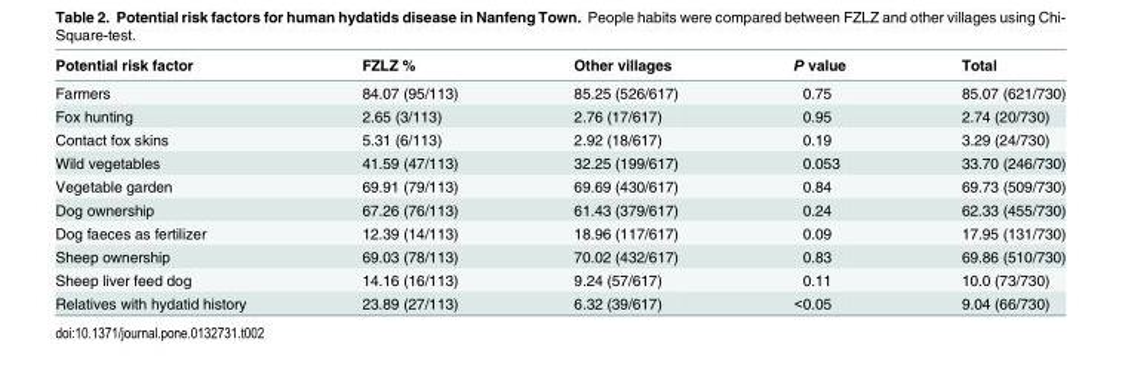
<table><thead><tr><td>Potential risk factor</td><td>FZLZ %</td><td>Other villages</td><td>P value</td><td>Total</td></tr></thead><tbody><tr><td>Farmers</td><td>84.07 (95/113)</td><td>85.25 (526/617)</td><td>0.75</td><td>85.07 (621/730)</td></tr><tr><td>Fox hunting</td><td>2.65 (3/113)</td><td>2.76 (17/617)</td><td>0.95</td><td>2.74 (20/730)</td></tr><tr><td>Contact fox skins</td><td>5.31 (6/113)</td><td>2.92 (18/617)</td><td>0.19</td><td>3.29 (24/730)</td></tr><tr><td>Wild vegetables</td><td>41.59 (47/113)</td><td>32.25 (199/617)</td><td>0.053</td><td>33.70 (246/730)</td></tr><tr><td>Vegetable garden</td><td>69.91 (79/113)</td><td>69.69 (430/617)</td><td>0.84</td><td>69.73 (509/730)</td></tr><tr><td>Dog ownership</td><td>67.26 (76/113)</td><td>61.43 (379/617)</td><td>0.24</td><td>62.33 (455/730)</td></tr><tr><td>Dog faeces as fertilizer</td><td>12.39 (14/113)</td><td>18.96 (117/617)</td><td>0.09</td><td>17.95 (131/730)</td></tr><tr><td>Sheep ownership</td><td>69.03 (78/113)</td><td>70.02 (432/617)</td><td>0.83</td><td>69.86 (510/730)</td></tr><tr><td>Sheep liver feed dog</td><td>14.16 (16/113)</td><td>9.24 (57/617)</td><td>0.11</td><td>10.0 (73/730)</td></tr><tr><td>Relatives with hydatid history</td><td>23.89 (27/113)</td><td>6.32 (39/617)</td><td>&lt;0.05</td><td>9.04 (66/730)</td></tr></tbody></table>